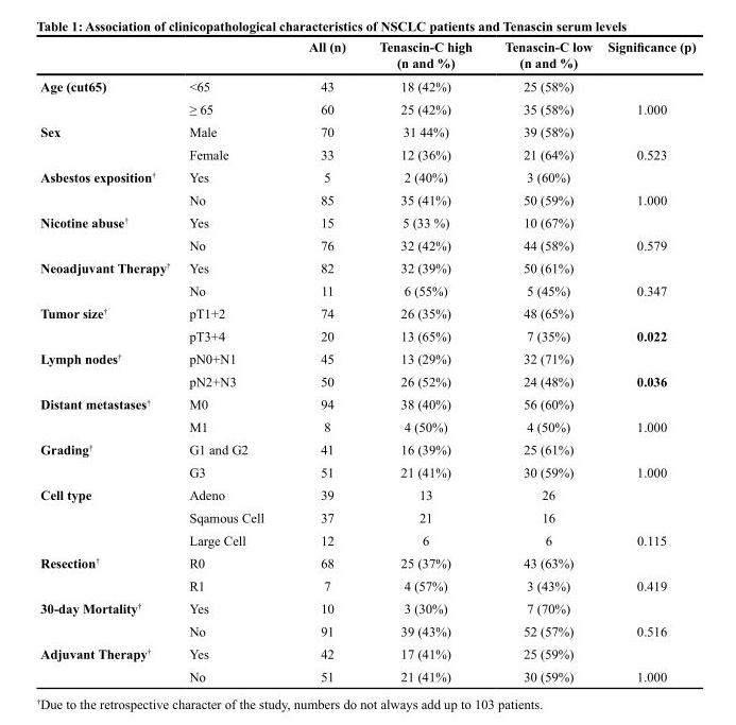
<table><thead><tr><td></td><td></td><td>All (n)</td><td>Tenascin-C high (n and %)</td><td>Tenascin-C low (n and %)</td><td>Significance (p)</td></tr></thead><tbody><tr><td rowspan="2">Age (cut65)</td><td>&lt;65</td><td>43</td><td>18 (42%)</td><td>25 (58%)</td><td></td></tr><tr><td>≥ 65</td><td>60</td><td>25 (42%)</td><td>35 (58%)</td><td>1.000</td></tr><tr><td rowspan="2">Sex</td><td>Male</td><td>70</td><td>31 44%)</td><td>39 (58%)</td><td></td></tr><tr><td>Female</td><td>33</td><td>12 (36%)</td><td>21 (64%)</td><td>0.523</td></tr><tr><td rowspan="2">Asbestos exposition<sup>†</sup></td><td>Yes</td><td>5</td><td>2 (40%)</td><td>3 (60%)</td><td></td></tr><tr><td>No</td><td>85</td><td>35 (41%)</td><td>50 (59%)</td><td>1.000</td></tr><tr><td rowspan="2">Nicotine abuse<sup>†</sup></td><td>Yes</td><td>15</td><td>5 (33 %)</td><td>10 (67%)</td><td></td></tr><tr><td>No</td><td>76</td><td>32 (42%)</td><td>44 (58%)</td><td>0.579</td></tr><tr><td rowspan="2">Neoadjuvant Therapy<sup>†</sup></td><td>Yes</td><td>82</td><td>32 (39%)</td><td>50 (61%)</td><td></td></tr><tr><td>No</td><td>11</td><td>6 (55%)</td><td>5 (45%)</td><td>0.347</td></tr><tr><td rowspan="2">Tumor size<sup>†</sup></td><td>pT1+2</td><td>74</td><td>26 (35%)</td><td>48 (65%)</td><td></td></tr><tr><td>pT3+4</td><td>20</td><td>13 (65%)</td><td>7 (35%)</td><td>0.022</td></tr><tr><td rowspan="2">Lymph nodes<sup>†</sup></td><td>pN0+N1</td><td>45</td><td>13 (29%)</td><td>32 (71%)</td><td></td></tr><tr><td>pN2+N3</td><td>50</td><td>26 (52%)</td><td>24 (48%)</td><td>0.036</td></tr><tr><td rowspan="2">Distant metastases<sup>†</sup></td><td>M0</td><td>94</td><td>38 (40%)</td><td>56 (60%)</td><td></td></tr><tr><td>M1</td><td>8</td><td>4 (50%)</td><td>4 (50%)</td><td>1.000</td></tr><tr><td rowspan="2">Grading<sup>†</sup></td><td>G1 and G2</td><td>41</td><td>16 (39%)</td><td>25 (61%)</td><td></td></tr><tr><td>G3</td><td>51</td><td>21 (41%)</td><td>30 (59%)</td><td>1.000</td></tr><tr><td rowspan="3">Cell type</td><td>Adeno</td><td>39</td><td>13</td><td>26</td><td></td></tr><tr><td>Sqamous Cell</td><td>37</td><td>21</td><td>16</td><td></td></tr><tr><td>Large Cell</td><td>12</td><td>6</td><td>6</td><td>0.115</td></tr><tr><td rowspan="2">Resection<sup>†</sup></td><td>R0</td><td>68</td><td>25 (37%)</td><td>43 (63%)</td><td></td></tr><tr><td>R1</td><td>7</td><td>4 (57%)</td><td>3 (43%)</td><td>0.419</td></tr><tr><td rowspan="2">30-day Mortality<sup>†</sup></td><td>Yes</td><td>10</td><td>3 (30%)</td><td>7 (70%)</td><td></td></tr><tr><td>No</td><td>91</td><td>39 (43%)</td><td>52 (57%)</td><td>0.516</td></tr><tr><td rowspan="2">Adjuvant Therapy<sup>†</sup></td><td>Yes</td><td>42</td><td>17 (41%)</td><td>25 (59%)</td><td></td></tr><tr><td>No</td><td>51</td><td>21 (41%)</td><td>30 (59%)</td><td>1.000</td></tr></tbody></table>